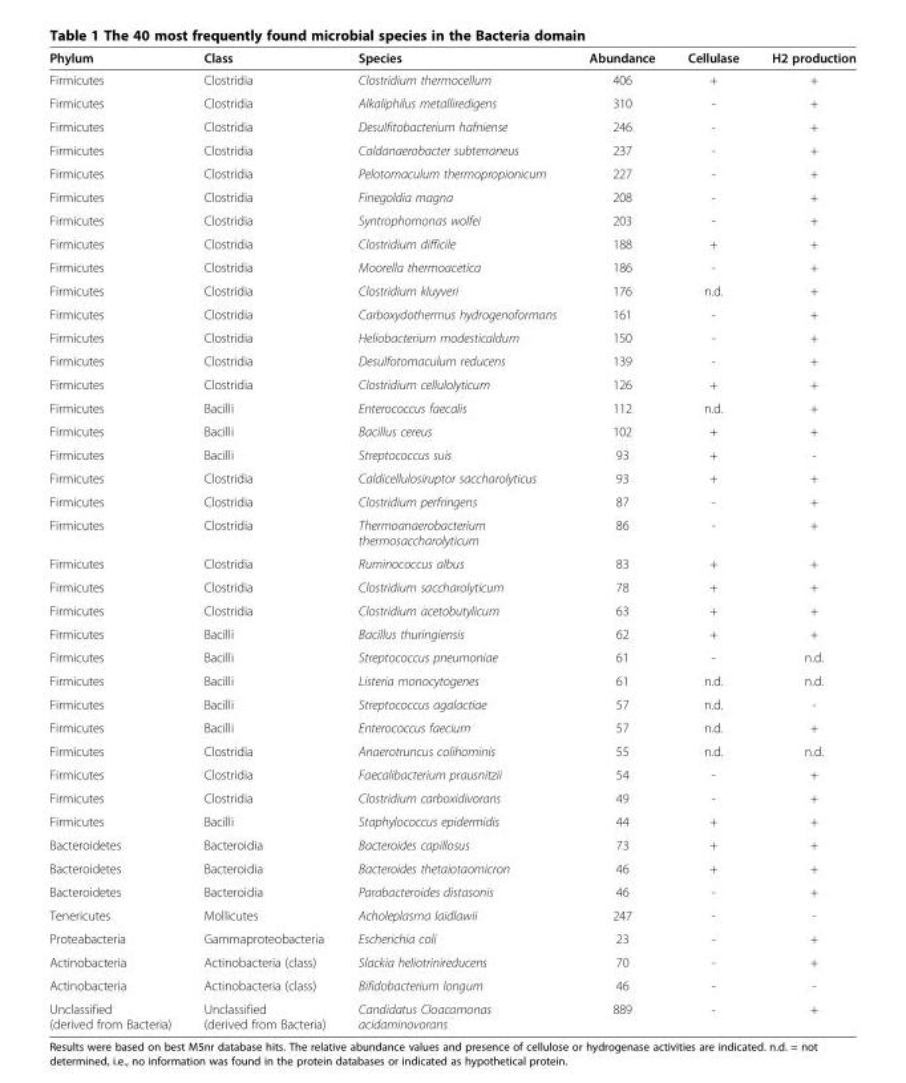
<table><thead><tr><td>Phylum</td><td>Class</td><td>Species</td><td>Abundance</td><td>Cellulase</td><td>H2 production</td></tr></thead><tbody><tr><td>Firmicutes</td><td>Clostridia</td><td>Clostridium thermocellum</td><td>406</td><td>+</td><td>+</td></tr><tr><td>Firmicutes</td><td>Clostridia</td><td>Alkaliphilus metalliredigens</td><td>310</td><td>-</td><td>+</td></tr><tr><td>Firmicutes</td><td>Clostridia</td><td>Desulfitobacterium hafniense</td><td>246</td><td>-</td><td>+</td></tr><tr><td>Firmicutes</td><td>Clostridia</td><td>Caldanaerobacter subterraneus</td><td>237</td><td>-</td><td>+</td></tr><tr><td>Firmicutes</td><td>Clostridia</td><td>Pelotomaculum thermopropionicum</td><td>227</td><td>-</td><td>+</td></tr><tr><td>Firmicutes</td><td>Clostridia</td><td>Finegoldia magna</td><td>208</td><td>-</td><td>+</td></tr><tr><td>Firmicutes</td><td>Clostridia</td><td>Syntrophomonas wolfei</td><td>203</td><td>-</td><td>+</td></tr><tr><td>Firmicutes</td><td>Clostridia</td><td>Clostridium difficile</td><td>188</td><td>+</td><td>+</td></tr><tr><td>Firmicutes</td><td>Clostridia</td><td>Moorella thermoacetica</td><td>186</td><td>-</td><td>+</td></tr><tr><td>Firmicutes</td><td>Clostridia</td><td>Clostridium kluyveri</td><td>176</td><td>n.d.</td><td>+</td></tr><tr><td>Firmicutes</td><td>Clostridia</td><td>Carboxydothermus hydrogenoformans</td><td>161</td><td>-</td><td>+</td></tr><tr><td>Firmicutes</td><td>Clostridia</td><td>Heliobacterium modesticaldum</td><td>150</td><td>-</td><td>+</td></tr><tr><td>Firmicutes</td><td>Clostridia</td><td>Desulfotomaculum reducens</td><td>139</td><td>-</td><td>+</td></tr><tr><td>Firmicutes</td><td>Clostridia</td><td>Clostridium cellulolyticum</td><td>126</td><td>+</td><td>+</td></tr><tr><td>Firmicutes</td><td>Bacilli</td><td>Enterococcus faecalis</td><td>112</td><td>n.d.</td><td>+</td></tr><tr><td>Firmicutes</td><td>Bacilli</td><td>Bacillus cereus</td><td>102</td><td>+</td><td>+</td></tr><tr><td>Firmicutes</td><td>Bacilli</td><td>Streptococcus suis</td><td>93</td><td>+</td><td>-</td></tr><tr><td>Firmicutes</td><td>Clostridia</td><td>Caldicellulosiruptor saccharolyticus</td><td>93</td><td>+</td><td>+</td></tr><tr><td>Firmicutes</td><td>Clostridia</td><td>Clostridium perfringens</td><td>87</td><td>-</td><td>+</td></tr><tr><td>Firmicutes</td><td>Clostridia</td><td>Thermoanaerobacterium thermosaccharolyticum</td><td>86</td><td>-</td><td>+</td></tr><tr><td>Firmicutes</td><td>Clostridia</td><td>Ruminococcus albus</td><td>83</td><td>+</td><td>+</td></tr><tr><td>Firmicutes</td><td>Clostridia</td><td>Clostridium saccharolyticum</td><td>78</td><td>+</td><td>+</td></tr><tr><td>Firmicutes</td><td>Clostridia</td><td>Clostridium acetobutylicum</td><td>63</td><td>+</td><td>+</td></tr><tr><td>Firmicutes</td><td>Bacilli</td><td>Bacillus thuringiensis</td><td>62</td><td>+</td><td>+</td></tr><tr><td>Firmicutes</td><td>Bacilli</td><td>Streptococcus pneumoniae</td><td>61</td><td>-</td><td>n.d.</td></tr><tr><td>Firmicutes</td><td>Bacilli</td><td>Listeria monocytogenes</td><td>61</td><td>n.d.</td><td>n.d.</td></tr><tr><td>Firmicutes</td><td>Bacilli</td><td>Streptococcus agalactiae</td><td>57</td><td>n.d.</td><td>-</td></tr><tr><td>Firmicutes</td><td>Bacilli</td><td>Enterococcus faecium</td><td>57</td><td>n.d.</td><td>+</td></tr><tr><td>Firmicutes</td><td>Clostridia</td><td>Anaerotruncus colihominis</td><td>55</td><td>n.d.</td><td>n.d.</td></tr><tr><td>Firmicutes</td><td>Clostridia</td><td>Faecalibacterium prausnitzii</td><td>54</td><td>-</td><td>+</td></tr><tr><td>Firmicutes</td><td>Clostridia</td><td>Clostridium carboxidivorans</td><td>49</td><td>-</td><td>+</td></tr><tr><td>Firmicutes</td><td>Bacilli</td><td>Staphylococcus epidermidis</td><td>44</td><td>+</td><td>+</td></tr><tr><td>Bacteroidetes</td><td>Bacteroidia</td><td>Bacteroides capillosus</td><td>73</td><td>+</td><td>+</td></tr><tr><td>Bacteroidetes</td><td>Bacteroidia</td><td>Bacteroides thetaiotaomicron</td><td>46</td><td>+</td><td>+</td></tr><tr><td>Bacteroidetes</td><td>Bacteroidia</td><td>Parabacteroides distasonis</td><td>46</td><td>-</td><td>+</td></tr><tr><td>Tenericutes</td><td>Mollicutes</td><td>Acholeplasma laidlawii</td><td>247</td><td>-</td><td>-</td></tr><tr><td>Proteabacteria</td><td>Gammaproteobacteria</td><td>Escherichia coli</td><td>23</td><td>-</td><td>+</td></tr><tr><td>Actinobacteria</td><td>Actinobacteria (class)</td><td>Slackia heliotrinireducens</td><td>70</td><td>-</td><td>+</td></tr><tr><td>Actinobacteria</td><td>Actinobacteria (class)</td><td>Bifidobacterium longum</td><td>46</td><td>-</td><td>-</td></tr><tr><td>Unclassified (derived from Bacteria)</td><td>Unclassified (derived from Bacteria)</td><td>Candidatus Cloacamonas acidaminovorans</td><td>889</td><td>-</td><td>+</td></tr></tbody></table>